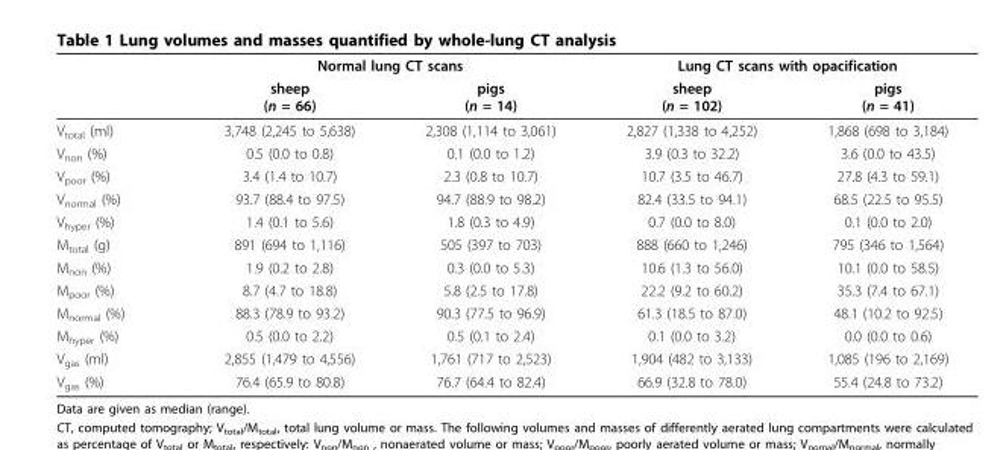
<table><thead><tr><td rowspan="2"></td><td colspan="2">Normal lung CT scans</td><td colspan="2">Lung CT scans with opacification</td></tr><tr><td>sheep (n = 66)</td><td>pigs (n = 14)</td><td>sheep (n = 102)</td><td>pigs (n = 41)</td></tr></thead><tbody><tr><td>V<sub>total</sub> (ml)</td><td>3,748 (2,245 to 5,638)</td><td>2,308 (1,114 to 3,061)</td><td>2,827 (1,338 to 4,252)</td><td>1,868 (698 to 3,184)</td></tr><tr><td>V<sub>non</sub> (%)</td><td>0.5 (0.0 to 0.8)</td><td>0.1 (0.0 to 1.2)</td><td>3.9 (0.3 to 32.2)</td><td>3.6 (0.0 to 43.5)</td></tr><tr><td>V<sub>poor</sub> (%)</td><td>3.4 (1.4 to 10.7)</td><td>2.3 (0.8 to 10.7)</td><td>10.7 (3.5 to 46.7)</td><td>27.8 (4.3 to 59.1)</td></tr><tr><td>V<sub>normal</sub> (%)</td><td>93.7 (88.4 to 97.5)</td><td>94.7 (88.9 to 98.2)</td><td>82.4 (33.5 to 94.1)</td><td>68.5 (22.5 to 95.5)</td></tr><tr><td>V<sub>hyper</sub> (%)</td><td>1.4 (0.1 to 5.6)</td><td>1.8 (0.3 to 4.9)</td><td>0.7 (0.0 to 8.0)</td><td>0.1 (0.0 to 2.0)</td></tr><tr><td>M<sub>total</sub> (g)</td><td>891 (694 to 1,116)</td><td>505 (397 to 703)</td><td>888 (660 to 1,246)</td><td>795 (346 to 1,564)</td></tr><tr><td>M<sub>non</sub> (%)</td><td>1.9 (0.2 to 2.8)</td><td>0.3 (0.0 to 5.3)</td><td>10.6 (1.3 to 56.0)</td><td>10.1 (0.0 to 58.5)</td></tr><tr><td>M<sub>poor</sub> (%)</td><td>8.7 (4.7 to 18.8)</td><td>5.8 (2.5 to 17.8)</td><td>22.2 (9.2 to 60.2)</td><td>35.3 (7.4 to 67.1)</td></tr><tr><td>M<sub>normal</sub> (%)</td><td>88.3 (78.9 to 93.2)</td><td>90.3 (77.5 to 96.9)</td><td>61.3 (18.5 to 87.0)</td><td>48.1 (10.2 to 92.5)</td></tr><tr><td>M<sub>hyper</sub> (%)</td><td>0.5 (0.0 to 2.2)</td><td>0.5 (0.1 to 2.4)</td><td>0.1 (0.0 to 3.2)</td><td>0.0 (0.0 to 0.6)</td></tr><tr><td>V<sub>gas</sub> (ml)</td><td>2,855 (1,479 to 4,556)</td><td>1,761 (717 to 2,523)</td><td>1,904 (482 to 3,133)</td><td>1,085 (196 to 2,169)</td></tr><tr><td>V<sub>gas</sub> (%)</td><td>76.4 (65.9 to 80.8)</td><td>76.7 (64.4 to 82.4)</td><td>66.9 (32.8 to 78.0)</td><td>55.4 (24.8 to 73.2)</td></tr></tbody></table>